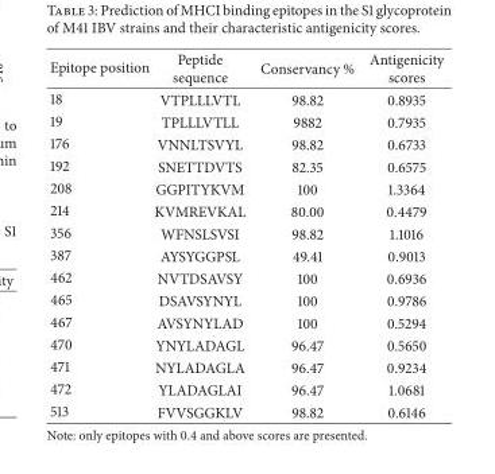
<table><thead><tr><td>Epitope position</td><td>Peptide sequence</td><td>Conservancy %</td><td>Antigenicity scores</td></tr></thead><tbody><tr><td>18</td><td>VTPLLLVTL</td><td>98.82</td><td>0.8935</td></tr><tr><td>19</td><td>TPLLLVTLL</td><td>9882</td><td>0.7935</td></tr><tr><td>176</td><td>VNNLTSVYL</td><td>98.82</td><td>0.6733</td></tr><tr><td>192</td><td>SNETTDVTS</td><td>82.35</td><td>0.6575</td></tr><tr><td>208</td><td>GGPITYKVM</td><td>100</td><td>1.3364</td></tr><tr><td>214</td><td>KVMREVKAL</td><td>80.00</td><td>0.4479</td></tr><tr><td>356</td><td>WFNSLSVSI</td><td>98.82</td><td>1.1016</td></tr><tr><td>387</td><td>AYSYGGPSL</td><td>49.41</td><td>0.9013</td></tr><tr><td>462</td><td>NVTDSAVSY</td><td>100</td><td>0.6936</td></tr><tr><td>465</td><td>DSAVSYNYL</td><td>100</td><td>0.9786</td></tr><tr><td>467</td><td>AVSYNYLAD</td><td>100</td><td>0.5294</td></tr><tr><td>470</td><td>YNYLADAGL</td><td>96.47</td><td>0.5650</td></tr><tr><td>471</td><td>NYLADAGLA</td><td>96.47</td><td>0.9234</td></tr><tr><td>472</td><td>YLADAGLAI</td><td>96.47</td><td>1.0681</td></tr><tr><td>513</td><td>FVVSGGKLV</td><td>98.82</td><td>0.6146</td></tr></tbody></table>